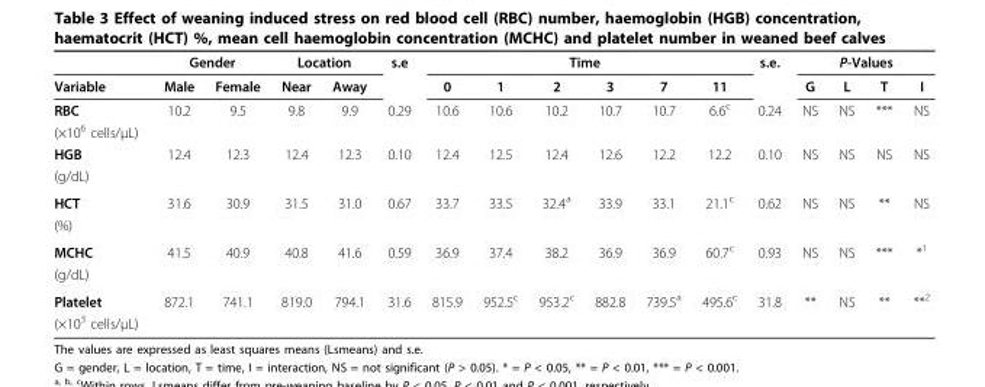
<table><thead><tr><td rowspan="2">Variable</td><td colspan="2">Gender</td><td colspan="2">Location</td><td rowspan="2">s.e</td><td colspan="6">Time</td><td rowspan="2">s.e.</td><td colspan="4">P-Values</td></tr><tr><td>Male</td><td>Female</td><td>Near</td><td>Away</td><td>0</td><td>1</td><td>2</td><td>3</td><td>7</td><td>11</td><td>G</td><td>L</td><td>T</td><td>I</td></tr></thead><tbody><tr><td>RBC</td><td>10.2</td><td>9.5</td><td>9.8</td><td>9.9</td><td>0.29</td><td>10.6</td><td>10.6</td><td>10.2</td><td>10.7</td><td>10.7</td><td>6.6<sup>c</sup></td><td>0.24</td><td>NS</td><td>NS</td><td>***</td><td>NS</td></tr><tr><td colspan="17">(×10<sup>6</sup> cells/μL)</td></tr><tr><td>HGB</td><td>12.4</td><td>12.3</td><td>12.4</td><td>12.3</td><td>0.10</td><td>12.4</td><td>12.5</td><td>12.4</td><td>12.6</td><td>12.2</td><td>12.2</td><td>0.10</td><td>NS</td><td>NS</td><td>NS</td><td>NS</td></tr><tr><td colspan="17">(g/dL)</td></tr><tr><td>HCT</td><td>31.6</td><td>30.9</td><td>31.5</td><td>31.0</td><td>0.67</td><td>33.7</td><td>33.5</td><td>32.4<sup>a</sup></td><td>33.9</td><td>33.1</td><td>21.1<sup>c</sup></td><td>0.62</td><td>NS</td><td>NS</td><td>**</td><td>NS</td></tr><tr><td colspan="17">(%)</td></tr><tr><td>MCHC</td><td>41.5</td><td>40.9</td><td>40.8</td><td>41.6</td><td>0.59</td><td>36.9</td><td>37.4</td><td>38.2</td><td>36.9</td><td>36.9</td><td>60.7<sup>c</sup></td><td>0.93</td><td>NS</td><td>NS</td><td>***</td><td>*<sup>1</sup></td></tr><tr><td colspan="17">(g/dL)</td></tr><tr><td>Platelet</td><td>872.1</td><td>741.1</td><td>819.0</td><td>794.1</td><td>31.6</td><td>815.9</td><td>952.5<sup>c</sup></td><td>953.2<sup>c</sup></td><td>882.8</td><td>739.5<sup>a</sup></td><td>495.6<sup>c</sup></td><td>31.8</td><td>**</td><td>NS</td><td>**</td><td>**<sup>2</sup></td></tr><tr><td>(×10<sup>3</sup> cells/μL)</td><td></td><td></td><td></td><td></td><td></td><td></td><td></td><td></td><td></td><td></td><td></td><td></td><td></td><td></td><td></td><td></td></tr></tbody></table>